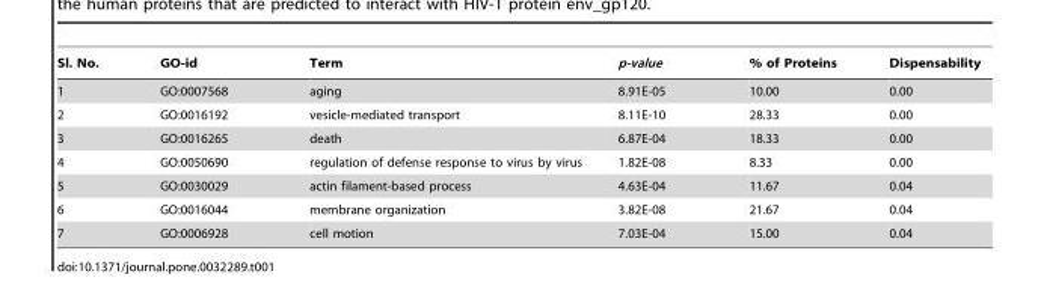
<table><thead><tr><td>Sl. No.</td><td>GO-id</td><td>Term</td><td>p-value</td><td>% of Proteins</td><td>Dispensability</td></tr></thead><tbody><tr><td>1</td><td>GO:0007568</td><td>aging</td><td>8.91E-05</td><td>10.00</td><td>0.00</td></tr><tr><td>2</td><td>GO:0016192</td><td>vesicle-mediated transport</td><td>8.11E-10</td><td>28.33</td><td>0.00</td></tr><tr><td>3</td><td>GO:0016265</td><td>death</td><td>6.87E-04</td><td>18.33</td><td>0.00</td></tr><tr><td>4</td><td>GO:0050690</td><td>regulation of defense response to virus by virus</td><td>1.82E-08</td><td>8.33</td><td>0.00</td></tr><tr><td>5</td><td>GO:0030029</td><td>actin filament-based process</td><td>4.63E-04</td><td>11.67</td><td>0.04</td></tr><tr><td>6</td><td>GO:0016044</td><td>membrane organization</td><td>3.82E-08</td><td>21.67</td><td>0.04</td></tr><tr><td>7</td><td>GO:0006928</td><td>cell motion</td><td>7.03E-04</td><td>15.00</td><td>0.04</td></tr></tbody></table>